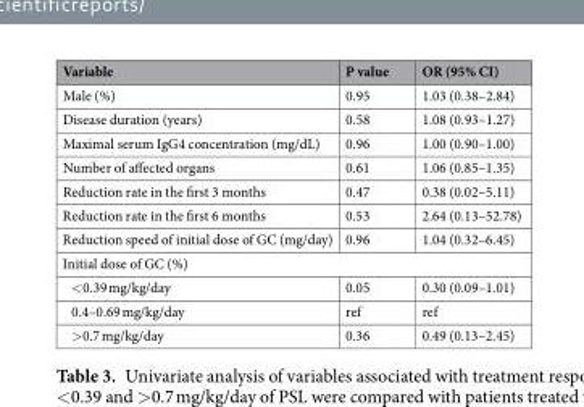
<table><thead><tr><td>Variable</td><td>P value</td><td>OR (95% CI)</td></tr></thead><tbody><tr><td>Male (%)</td><td>0.95</td><td>1.03 (0.38–2.84)</td></tr><tr><td>Disease duration (years)</td><td>0.58</td><td>1.08 (0.93–1.27)</td></tr><tr><td>Maximal serum IgG4 concentration (mg/dL)</td><td>0.96</td><td>1.00 (0.90–1.00)</td></tr><tr><td>Number of affected organs</td><td>0.61</td><td>1.06 (0.85–1.35)</td></tr><tr><td>Reduction rate in the first 3 months</td><td>0.47</td><td>0.38 (0.02–5.11)</td></tr><tr><td>Reduction rate in the first 6 months</td><td>0.53</td><td>2.64 (0.13–52.78)</td></tr><tr><td>Reduction speed of initial dose of GC (mg/day)</td><td>0.96</td><td>1.04 (0.32–6.45)</td></tr><tr><td colspan="3">Initial dose of GC (%)</td></tr><tr><td>&lt;0.39 mg/kg/day</td><td>0.05</td><td>0.30 (0.09–1.01)</td></tr><tr><td>0.4–0.69 mg/kg/day</td><td>ref</td><td>ref</td></tr><tr><td>&gt;0.7 mg/kg/day</td><td>0.36</td><td>0.49 (0.13–2.45)</td></tr></tbody></table>